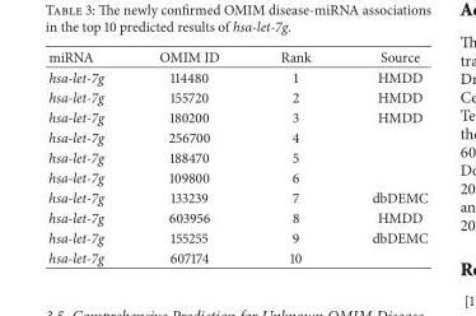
<table><thead><tr><td>miRNA</td><td>OMIM ID</td><td>Rank</td><td>Source</td></tr></thead><tbody><tr><td>hsa-let-7g</td><td>114480</td><td>1</td><td>HMDD</td></tr><tr><td>hsa-let-7g</td><td>155720</td><td>2</td><td>HMDD</td></tr><tr><td>hsa-let-7g</td><td>180200</td><td>3</td><td>HMDD</td></tr><tr><td>hsa-let-7g</td><td>256700</td><td>4</td><td></td></tr><tr><td>hsa-let-7g</td><td>188470</td><td>5</td><td></td></tr><tr><td>hsa-let-7g</td><td>109800</td><td>6</td><td></td></tr><tr><td>hsa-let-7g</td><td>133239</td><td>7</td><td>dbDEMC</td></tr><tr><td>hsa-let-7g</td><td>603956</td><td>8</td><td>HMDD</td></tr><tr><td>hsa-let-7g</td><td>155255</td><td>9</td><td>dbDEMC</td></tr><tr><td>hsa-let-7g</td><td>607174</td><td>10</td><td></td></tr></tbody></table>